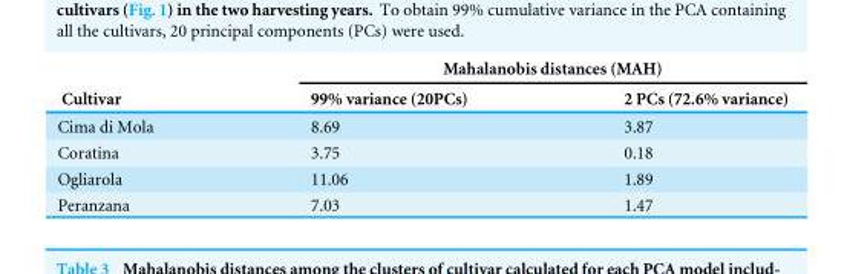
<table><thead><tr><td rowspan="2">Cultivar</td><td colspan="2">Mahalanobis distances (MAH)</td></tr><tr><td>99% variance (20PCs)</td><td>2 PCs (72.6% variance)</td></tr></thead><tbody><tr><td>Cima di Mola</td><td>8.69</td><td>3.87</td></tr><tr><td>Coratina</td><td>3.75</td><td>0.18</td></tr><tr><td>Ogliarola</td><td>11.06</td><td>1.89</td></tr><tr><td>Peranzana</td><td>7.03</td><td>1.47</td></tr></tbody></table>